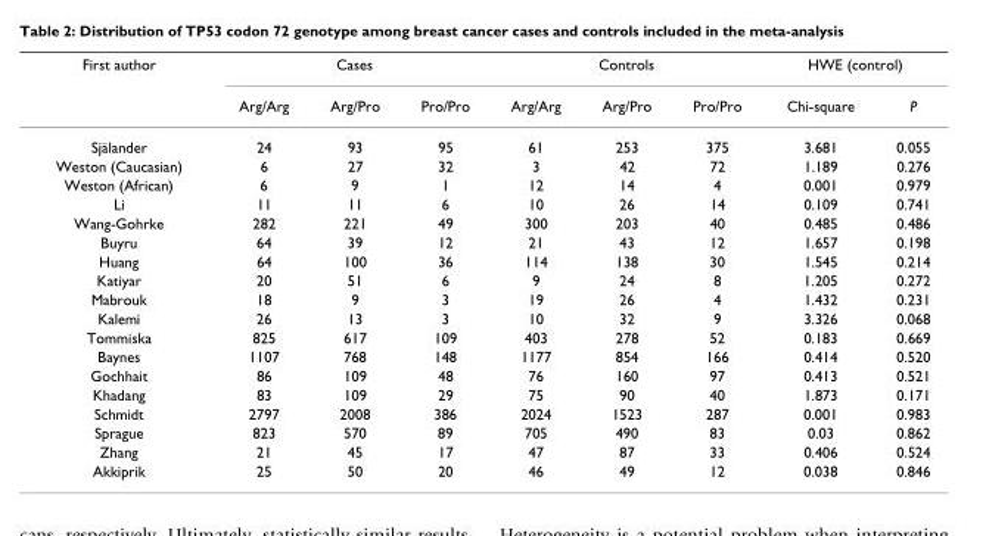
<table><thead><tr><td rowspan="2">First author</td><td colspan="3">Cases</td><td colspan="3">Controls</td><td colspan="2">HWE (control)</td></tr><tr><td>Arg/Arg</td><td>Arg/Pro</td><td>Pro/Pro</td><td>Arg/Arg</td><td>Arg/Pro</td><td>Pro/Pro</td><td>Chi-square</td><td>P</td></tr></thead><tbody><tr><td>Själander</td><td>24</td><td>93</td><td>95</td><td>61</td><td>253</td><td>375</td><td>3.681</td><td>0.055</td></tr><tr><td>Weston (Caucasian)</td><td>6</td><td>27</td><td>32</td><td>3</td><td>42</td><td>72</td><td>1.189</td><td>0.276</td></tr><tr><td>Weston (African)</td><td>6</td><td>9</td><td>1</td><td>12</td><td>14</td><td>4</td><td>0.001</td><td>0.979</td></tr><tr><td>Li</td><td>11</td><td>11</td><td>6</td><td>10</td><td>26</td><td>14</td><td>0.109</td><td>0.741</td></tr><tr><td>Wang-Gohrke</td><td>282</td><td>221</td><td>49</td><td>300</td><td>203</td><td>40</td><td>0.485</td><td>0.486</td></tr><tr><td>Buyru</td><td>64</td><td>39</td><td>12</td><td>21</td><td>43</td><td>12</td><td>1.657</td><td>0.198</td></tr><tr><td>Huang</td><td>64</td><td>100</td><td>36</td><td>114</td><td>138</td><td>30</td><td>1.545</td><td>0.214</td></tr><tr><td>Katiyar</td><td>20</td><td>51</td><td>6</td><td>9</td><td>24</td><td>8</td><td>1.205</td><td>0.272</td></tr><tr><td>Mabrouk</td><td>18</td><td>9</td><td>3</td><td>19</td><td>26</td><td>4</td><td>1.432</td><td>0.231</td></tr><tr><td>Kalemi</td><td>26</td><td>13</td><td>3</td><td>10</td><td>32</td><td>9</td><td>3.326</td><td>0.068</td></tr><tr><td>Tommiska</td><td>825</td><td>617</td><td>109</td><td>403</td><td>278</td><td>52</td><td>0.183</td><td>0.669</td></tr><tr><td>Baynes</td><td>1107</td><td>768</td><td>148</td><td>1177</td><td>854</td><td>166</td><td>0.414</td><td>0.520</td></tr><tr><td>Gochhait</td><td>86</td><td>109</td><td>48</td><td>76</td><td>160</td><td>97</td><td>0.413</td><td>0.521</td></tr><tr><td>Khadang</td><td>83</td><td>109</td><td>29</td><td>75</td><td>90</td><td>40</td><td>1.873</td><td>0.171</td></tr><tr><td>Schmidt</td><td>2797</td><td>2008</td><td>386</td><td>2024</td><td>1523</td><td>287</td><td>0.001</td><td>0.983</td></tr><tr><td>Sprague</td><td>823</td><td>570</td><td>89</td><td>705</td><td>490</td><td>83</td><td>0.03</td><td>0.862</td></tr><tr><td>Zhang</td><td>21</td><td>45</td><td>17</td><td>47</td><td>87</td><td>33</td><td>0.406</td><td>0.524</td></tr><tr><td>Akkiprik</td><td>25</td><td>50</td><td>20</td><td>46</td><td>49</td><td>12</td><td>0.038</td><td>0.846</td></tr></tbody></table>